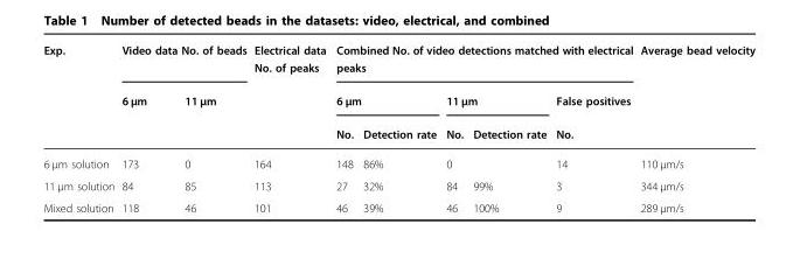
<table><thead><tr><td rowspan="3">Exp.</td><td colspan="2">Video data No. of beads</td><td rowspan="3">Electrical data No. of peaks</td><td colspan="5">Combined No. of video detections matched with electrical peaks</td><td rowspan="3">Average bead velocity</td></tr><tr><td rowspan="2">6 μm</td><td rowspan="2">11 μm</td><td colspan="2">6 μm</td><td colspan="2">11 μm</td><td rowspan="2">False positives No.</td></tr><tr><td>No.</td><td>Detection rate</td><td>No.</td><td>Detection rate</td></tr></thead><tbody><tr><td>6 μm solution</td><td>173</td><td>0</td><td>164</td><td>148</td><td>86%</td><td>0</td><td></td><td>14</td><td>110 μm/s</td></tr><tr><td>11 μm solution</td><td>84</td><td>85</td><td>113</td><td>27</td><td>32%</td><td>84</td><td>99%</td><td>3</td><td>344 μm/s</td></tr><tr><td>Mixed solution</td><td>118</td><td>46</td><td>101</td><td>46</td><td>39%</td><td>46</td><td>100%</td><td>9</td><td>289 μm/s</td></tr></tbody></table>